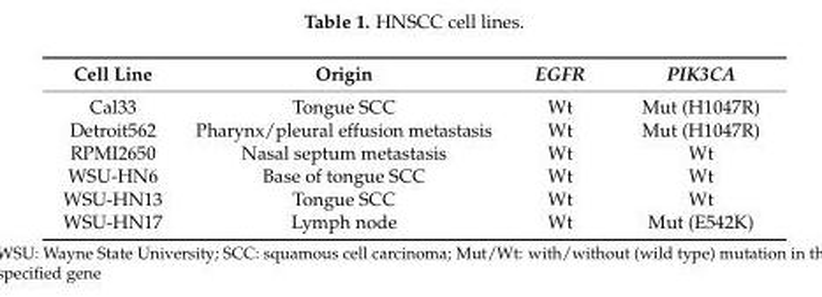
<table><thead><tr><td>Cell Line</td><td>Origin</td><td>EGFR</td><td>PIK3CA</td></tr></thead><tbody><tr><td>Cal33</td><td>Tongue SCC</td><td>Wt</td><td>Mut (H1047R)</td></tr><tr><td>Detroit562</td><td>Pharynx/pleural effusion metastasis</td><td>Wt</td><td>Mut (H1047R)</td></tr><tr><td>RPMI2650</td><td>Nasal septum metastasis</td><td>Wt</td><td>Wt</td></tr><tr><td>WSU-HN6</td><td>Base of tongue SCC</td><td>Wt</td><td>Wt</td></tr><tr><td>WSU-HN13</td><td>Tongue SCC</td><td>Wt</td><td>Wt</td></tr><tr><td>WSU-HN17</td><td>Lymph node</td><td>Wt</td><td>Mut (E542K)</td></tr></tbody></table>